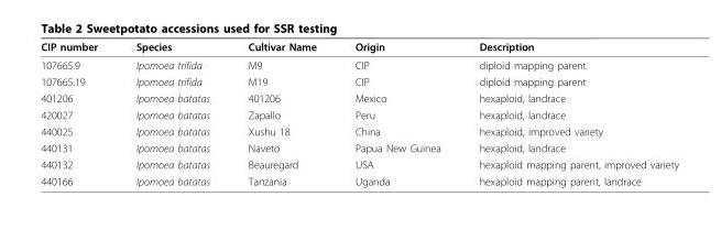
<table><thead><tr><td>CIP number</td><td>Species</td><td>Cultivar Name</td><td>Origin</td><td>Description</td></tr></thead><tbody><tr><td>107665.9</td><td>Ipomoea trifida</td><td>M9</td><td>CIP</td><td>diploid mapping parent</td></tr><tr><td>107665.19</td><td>Ipomoea trifida</td><td>M19</td><td>CIP</td><td>diploid mapping parent</td></tr><tr><td>401206</td><td>Ipomoea batatas</td><td>401206</td><td>Mexico</td><td>hexaploid, landrace</td></tr><tr><td>420027</td><td>Ipomoea batatas</td><td>Zapallo</td><td>Peru</td><td>hexaploid, landrace</td></tr><tr><td>440025</td><td>Ipomoea batatas</td><td>Xushu 18</td><td>China</td><td>hexaploid, improved variety</td></tr><tr><td>440131</td><td>Ipomoea batatas</td><td>Naveto</td><td>Papua New Guinea</td><td>hexaploid, landrace</td></tr><tr><td>440132</td><td>Ipomoea batatas</td><td>Beauregard</td><td>USA</td><td>hexaploid mapping parent, improved variety</td></tr><tr><td>440166</td><td>Ipomoea batatas</td><td>Tanzania</td><td>Uganda</td><td>hexaploid mapping parent, landrace</td></tr></tbody></table>